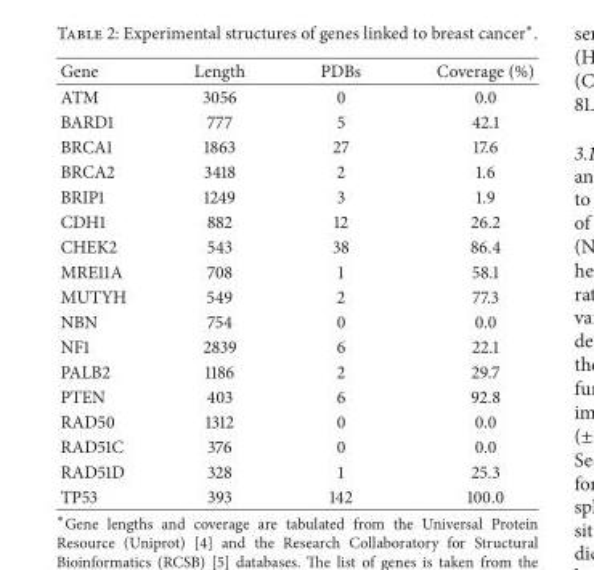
<table><thead><tr><td>Gene</td><td>Length</td><td>PDBs</td><td>Coverage (%)</td></tr></thead><tbody><tr><td>ATM</td><td>3056</td><td>0</td><td>0.0</td></tr><tr><td>BARD1</td><td>777</td><td>5</td><td>42.1</td></tr><tr><td>BRCA1</td><td>1863</td><td>27</td><td>17.6</td></tr><tr><td>BRCA2</td><td>3418</td><td>2</td><td>1.6</td></tr><tr><td>BRIP1</td><td>1249</td><td>3</td><td>1.9</td></tr><tr><td>CDH1</td><td>882</td><td>12</td><td>26.2</td></tr><tr><td>CHEK2</td><td>543</td><td>38</td><td>86.4</td></tr><tr><td>MRE11A</td><td>708</td><td>1</td><td>58.1</td></tr><tr><td>MUTYH</td><td>549</td><td>2</td><td>77.3</td></tr><tr><td>NBN</td><td>754</td><td>0</td><td>0.0</td></tr><tr><td>NF1</td><td>2839</td><td>6</td><td>22.1</td></tr><tr><td>PALB2</td><td>1186</td><td>2</td><td>29.7</td></tr><tr><td>PTEN</td><td>403</td><td>6</td><td>92.8</td></tr><tr><td>RAD50</td><td>1312</td><td>0</td><td>0.0</td></tr><tr><td>RAD51C</td><td>376</td><td>0</td><td>0.0</td></tr><tr><td>RAD51D</td><td>328</td><td>1</td><td>25.3</td></tr><tr><td>TP53</td><td>393</td><td>142</td><td>100.0</td></tr></tbody></table>